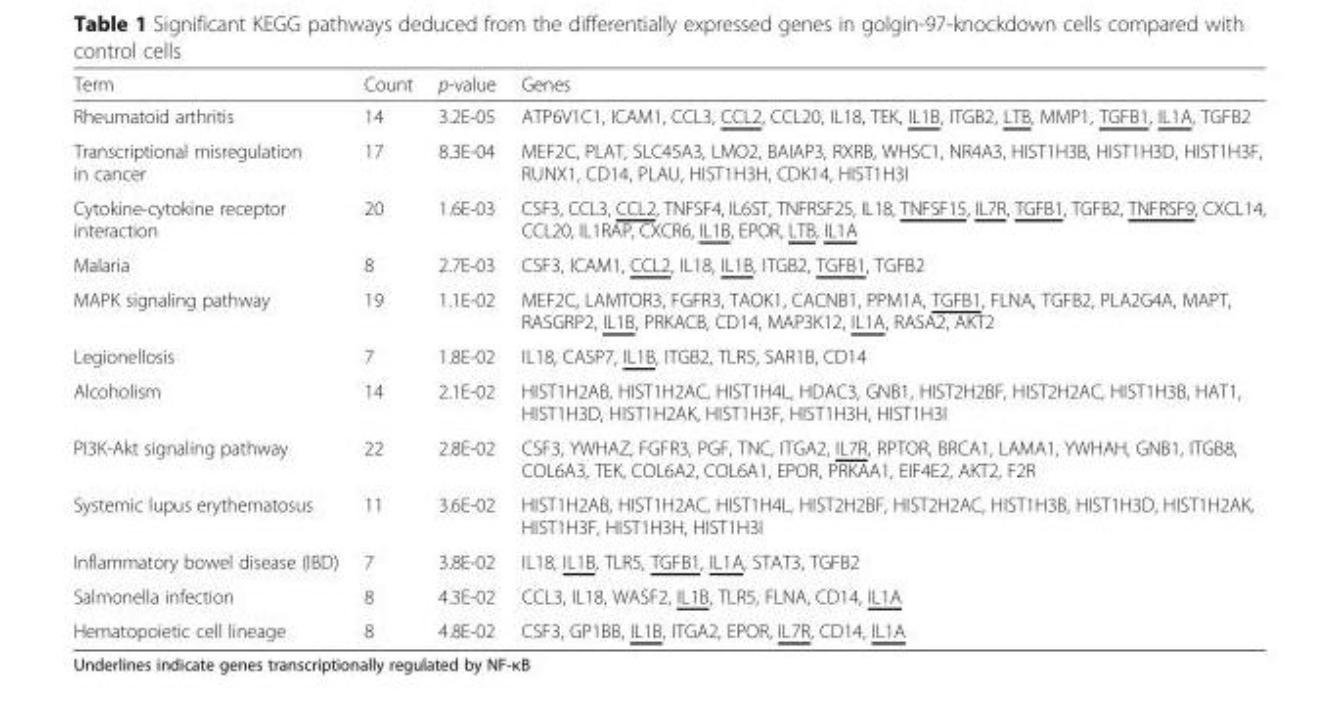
<table><thead><tr><td>Term</td><td>Count</td><td>p-value</td><td>Genes</td></tr></thead><tbody><tr><td>Rheumatoid arthritis</td><td>14</td><td>3.2E-05</td><td>ATP6V1C1, ICAM1, CCL3, CCL2, CCL20, IL18, TEK, IL1B, ITGB2, LTB, MMP1, TGFB1, IL1A, TGFB2</td></tr><tr><td>Transcriptional misregulation in cancer</td><td>17</td><td>8.3E-04</td><td>MEF2C, PLAT, SLC45A3, LMO2, BAIAP3, RXRB, WHSC1, NR4A3, HIST1H3B, HIST1H3D, HIST1H3F, RUNX1, CD14, PLAU, HIST1H3H, CDK14, HIST1H3I</td></tr><tr><td>Cytokine-cytokine receptor interaction</td><td>20</td><td>1.6E-03</td><td>CSF3, CCL3, CCL2, TNFSF4, IL6ST, TNFRSF25, IL18, TNFSF15, IL7R, TGFB1, TGFB2, TNFRSF9, CXCL14, CCL20, IL1RAP, CXCR6, IL1B, EPOR, LTB, IL1A</td></tr><tr><td>Malaria</td><td>8</td><td>2.7E-03</td><td>CSF3, ICAM1, CCL2, IL18, IL1B, ITGB2, TGFB1, TGFB2</td></tr><tr><td>MAPK signaling pathway</td><td>19</td><td>1.1E-02</td><td>MEF2C, LAMTOR3, FGFR3, TAOK1, CACNB1, PPM1A, TGFB1, FLNA, TGFB2, PLA2G4A, MAPT, RASGRP2, IL1B, PRKACB, CD14, MAP3K12, IL1A, RASA2, AKT2</td></tr><tr><td>Legionellosis</td><td>7</td><td>1.8E-02</td><td>IL18, CASP7, IL1B, ITGB2, TLR5, SAR1B, CD14</td></tr><tr><td>Alcoholism</td><td>14</td><td>2.1E-02</td><td>HIST1H2AB, HIST1H2AC, HIST1H4L, HDAC3, GNB1, HIST2H2BF, HIST2H2AC, HIST1H3B, HAT1, HIST1H3D, HIST1H2AK, HIST1H3F, HIST1H3H, HIST1H3I</td></tr><tr><td>PI3K-Akt signaling pathway</td><td>22</td><td>2.8E-02</td><td>CSF3, YWHAZ, FGFR3, PGF, TNC, ITGA2, IL7R, RPTOR, BRCA1, LAMA1, YWHAH, GNB1, ITGB8, COL6A3, TEK, COL6A2, COL6A1, EPOR, PRKAA1, EIF4E2, AKT2, F2R</td></tr><tr><td>Systemic lupus erythematosus</td><td>11</td><td>3.6E-02</td><td>HIST1H2AB, HIST1H2AC, HIST1H4L, HIST2H2BF, HIST2H2AC, HIST1H3B, HIST1H3D, HIST1H2AK, HIST1H3F, HIST1H3H, HIST1H3I</td></tr><tr><td>Inflammatory bowel disease (IBD)</td><td>7</td><td>3.8E-02</td><td>IL18, IL1B, TLR5, TGFB1, IL1A, STAT3, TGFB2</td></tr><tr><td>Salmonella infection</td><td>8</td><td>4.3E-02</td><td>CCL3, IL18, WASF2, IL1B, TLR5, FLNA, CD14, IL1A</td></tr><tr><td>Hematopoietic cell lineage</td><td>8</td><td>4.8E-02</td><td>CSF3, GP1BB, IL1B, ITGA2, EPOR, IL7R, CD14, IL1A</td></tr></tbody></table>